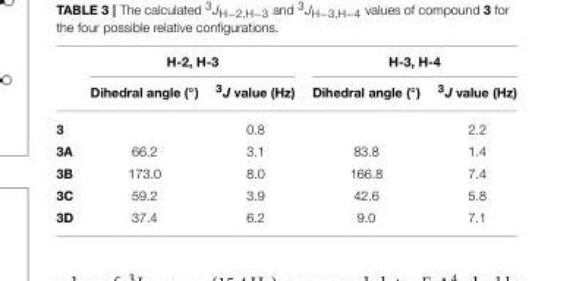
<table><thead><tr><td rowspan="2"></td><td colspan="2">H-2, H-3</td><td colspan="2">H-3, H-4</td></tr><tr><td>Dihedral angle (◦)</td><td><sup>3</sup>J value (Hz)</td><td>Dihedral angle (◦)</td><td><sup>3</sup>J value (Hz)</td></tr></thead><tbody><tr><td>3</td><td></td><td>0.8</td><td></td><td>2.2</td></tr><tr><td>3A</td><td>66.2</td><td>3.1</td><td>83.8</td><td>1.4</td></tr><tr><td>3B</td><td>173.0</td><td>8.0</td><td>166.8</td><td>7.4</td></tr><tr><td>3C</td><td>59.2</td><td>3.9</td><td>42.6</td><td>5.8</td></tr><tr><td>3D</td><td>37.4</td><td>6.2</td><td>9.0</td><td>7.1</td></tr></tbody></table>